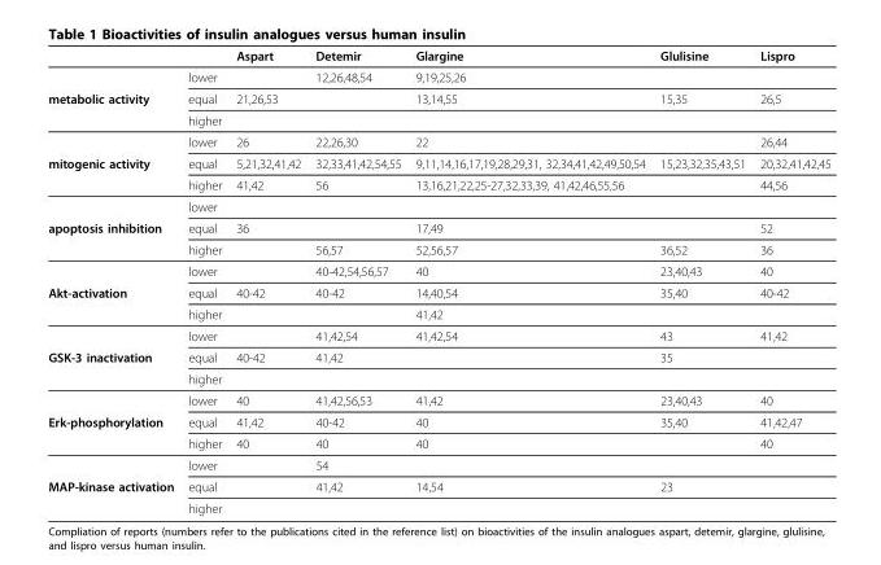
<table><thead><tr><td></td><td></td><td>Aspart</td><td>Detemir</td><td>Glargine</td><td>Glulisine</td><td>Lispro</td></tr></thead><tbody><tr><td></td><td>lower</td><td></td><td>12,26,48,54</td><td>9,19,25,26</td><td></td><td></td></tr><tr><td rowspan="3">metabolic activity</td><td>equal</td><td>21,26,53</td><td></td><td>13,14,55</td><td>15,35</td><td>26,5</td></tr><tr><td>higher</td><td></td><td></td><td></td><td></td><td></td></tr><tr><td>lower</td><td>26</td><td>22,26,30</td><td>22</td><td></td><td>26,44</td></tr><tr><td rowspan="3">mitogenic activity</td><td>equal</td><td>5,21,32,41,42</td><td>32,33,41,42,54,55</td><td>9,11,14,16,17,19,28,29,31, 32,34,41,42,49,50,54</td><td>15,23,32,35,43,51</td><td>20,32,41,42,45</td></tr><tr><td>higher</td><td>41,42</td><td>56</td><td>13,16,21,22,25-27,32,33,39, 41,42,46,55,56</td><td></td><td>44,56</td></tr><tr><td>lower</td><td></td><td></td><td></td><td></td><td></td></tr><tr><td rowspan="3">apoptosis inhibition</td><td>equal</td><td>36</td><td></td><td>17,49</td><td></td><td>52</td></tr><tr><td>higher</td><td></td><td>56,57</td><td>52,56,57</td><td>36,52</td><td>36</td></tr><tr><td>lower</td><td></td><td>40-42,54,56,57</td><td>40</td><td>23,40,43</td><td>40</td></tr><tr><td rowspan="3">Akt-activation</td><td>equal</td><td>40-42</td><td>40-42</td><td>14,40,54</td><td>35,40</td><td>40-42</td></tr><tr><td>higher</td><td></td><td></td><td>41,42</td><td></td><td></td></tr><tr><td>lower</td><td></td><td>41,42,54</td><td>41,42,54</td><td>43</td><td>41,42</td></tr><tr><td rowspan="3">GSK-3 inactivation</td><td>equal</td><td>40-42</td><td>41,42</td><td></td><td>35</td><td></td></tr><tr><td>higher</td><td></td><td></td><td></td><td></td><td></td></tr><tr><td>lower</td><td>40</td><td>41,42,56,53</td><td>41,42</td><td>23,40,43</td><td>40</td></tr><tr><td rowspan="3">Erk-phosphorylation</td><td>equal</td><td>41,42</td><td>40-42</td><td>40</td><td>35,40</td><td>41,42,47</td></tr><tr><td>higher</td><td>40</td><td>40</td><td>40</td><td></td><td>40</td></tr><tr><td>lower</td><td></td><td>54</td><td></td><td></td><td></td></tr><tr><td rowspan="2">MAP-kinase activation</td><td>equal</td><td></td><td>41,42</td><td>14,54</td><td>23</td><td></td></tr><tr><td>higher</td><td></td><td></td><td></td><td></td><td></td></tr></tbody></table>